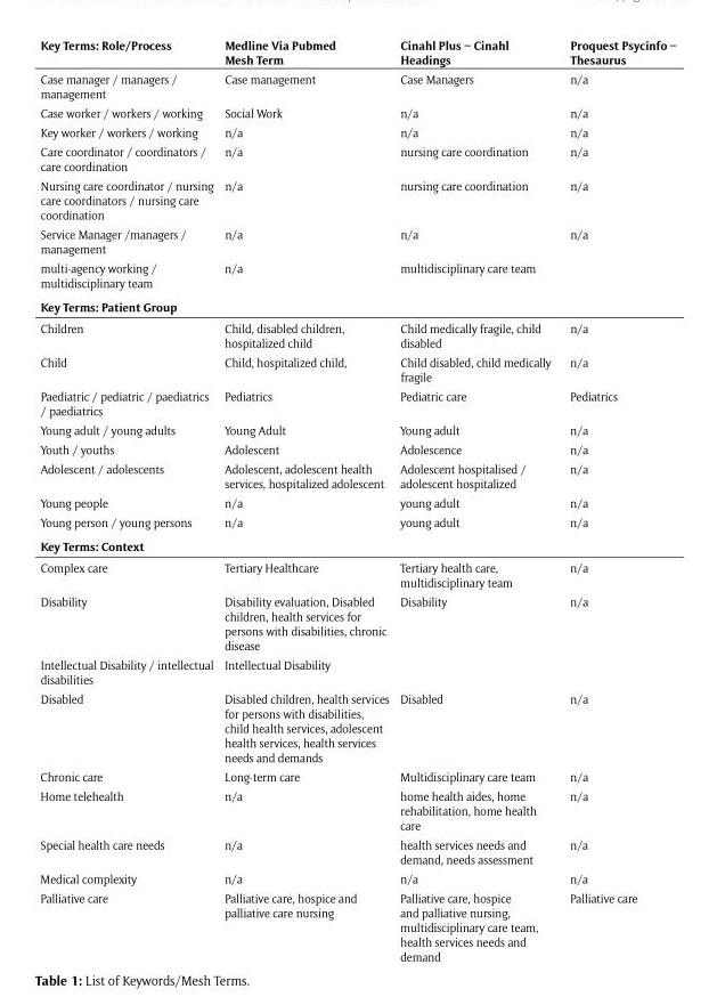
<table><thead><tr><td>Key Terms: Role/Process</td><td>Medline Via Pubmed Mesh Term</td><td>Cinahl Plus – Cinahl Headings</td><td>Proquest Psycinfo – Thesaurus</td></tr></thead><tbody><tr><td>Case manager / managers / management</td><td>Case management</td><td>Case Managers</td><td>n/a</td></tr><tr><td>Case worker / workers / working</td><td>Social Work</td><td>n/a</td><td>n/a</td></tr><tr><td>Key worker / workers / working</td><td>n/a</td><td>n/a</td><td>n/a</td></tr><tr><td>Care coordinator / coordinators / care coordination</td><td>n/a</td><td>nursing care coordination</td><td>n/a</td></tr><tr><td>Nursing care coordinator / nursing care coordinators / nursing care coordination</td><td>n/a</td><td>nursing care coordination</td><td>n/a</td></tr><tr><td>Service Manager /managers / management</td><td>n/a</td><td>n/a</td><td>n/a</td></tr><tr><td>multi-agency working / multidisciplinary team</td><td>n/a</td><td>multidisciplinary care team</td><td></td></tr><tr><td colspan="4">Key Terms: Patient Group</td></tr><tr><td>Children</td><td>Child, disabled children, hospitalized child</td><td>Child medically fragile, child disabled</td><td>n/a</td></tr><tr><td>Child</td><td>Child, hospitalized child,</td><td>Child disabled, child medically fragile</td><td>n/a</td></tr><tr><td>Paediatric / pediatric / paediatrics / paediatrics</td><td>Pediatrics</td><td>Pediatric care</td><td>Pediatrics</td></tr><tr><td>Young adult / young adults</td><td>Young Adult</td><td>Young adult</td><td>n/a</td></tr><tr><td>Youth / youths</td><td>Adolescent</td><td>Adolescence</td><td>n/a</td></tr><tr><td>Adolescent / adolescents</td><td>Adolescent, adolescent health services, hospitalized adolescent</td><td>Adolescent hospitalised / adolescent hospitalized</td><td>n/a</td></tr><tr><td>Young people</td><td>n/a</td><td>young adult</td><td>n/a</td></tr><tr><td>Young person / young persons</td><td>n/a</td><td>young adult</td><td>n/a</td></tr><tr><td colspan="4">Key Terms: Context</td></tr><tr><td>Complex care</td><td>Tertiary Healthcare</td><td>Tertiary health care, multidisciplinary team</td><td>n/a</td></tr><tr><td>Disability</td><td>Disability evaluation, Disabled children, health services for persons with disabilities, chronic disease</td><td>Disability</td><td>n/a</td></tr><tr><td>Intellectual Disability / intellectual disabilities</td><td>Intellectual Disability</td><td></td><td></td></tr><tr><td>Disabled</td><td>Disabled children, health services for persons with disabilities, child health services, adolescent health services, health services needs and demands</td><td>Disabled</td><td>n/a</td></tr><tr><td>Chronic care</td><td>Long-term care</td><td>Multidisciplinary care team</td><td>n/a</td></tr><tr><td>Home telehealth</td><td>n/a</td><td>home health aides, home rehabilitation, home health care</td><td>n/a</td></tr><tr><td>Special health care needs</td><td>n/a</td><td>health services needs and demand, needs assessment</td><td>n/a</td></tr><tr><td>Medical complexity</td><td>n/a</td><td>n/a</td><td>n/a</td></tr><tr><td>Palliative care</td><td>Palliative care, hospice and palliative care nursing</td><td>Palliative care, hospice and palliative nursing, multidisciplinary care team, health services needs and demand</td><td>Palliative care</td></tr></tbody></table>